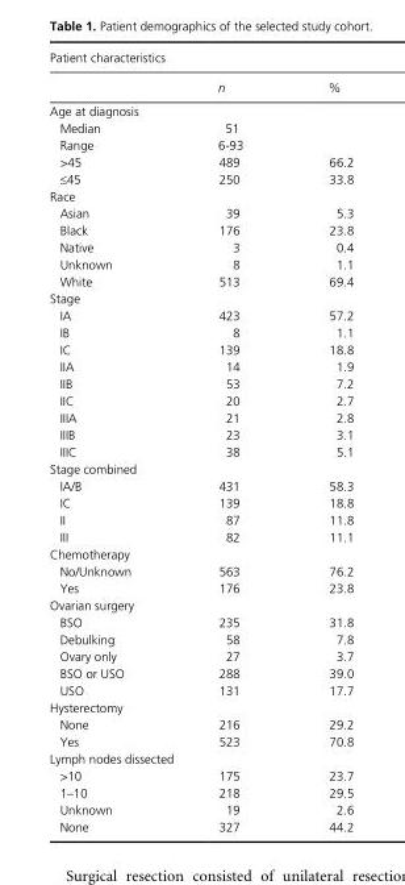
<table><thead><tr><td colspan="3">Patient characteristics</td></tr><tr><td></td><td>n</td><td>%</td></tr></thead><tbody><tr><td colspan="3">Age at diagnosis</td></tr><tr><td>Median</td><td colspan="2">51</td></tr><tr><td>Range</td><td>6-93</td><td></td></tr><tr><td>&gt;45</td><td>489</td><td>66.2</td></tr><tr><td>≤45</td><td>250</td><td>33.8</td></tr><tr><td colspan="3">Race</td></tr><tr><td>Asian</td><td>39</td><td>5.3</td></tr><tr><td>Black</td><td>176</td><td>23.8</td></tr><tr><td>Native</td><td>3</td><td>0.4</td></tr><tr><td>Unknown</td><td>8</td><td>1.1</td></tr><tr><td>White</td><td>513</td><td>69.4</td></tr><tr><td colspan="3">Stage</td></tr><tr><td>IA</td><td>423</td><td>57.2</td></tr><tr><td>IB</td><td>8</td><td>1.1</td></tr><tr><td>IC</td><td>139</td><td>18.8</td></tr><tr><td>IIA</td><td>14</td><td>1.9</td></tr><tr><td>IIB</td><td>53</td><td>7.2</td></tr><tr><td>IIC</td><td>20</td><td>2.7</td></tr><tr><td>IIIA</td><td>21</td><td>2.8</td></tr><tr><td>IIIB</td><td>23</td><td>3.1</td></tr><tr><td>IIIC</td><td>38</td><td>5.1</td></tr><tr><td colspan="3">Stage combined</td></tr><tr><td>IA/B</td><td>431</td><td>58.3</td></tr><tr><td>IC</td><td>139</td><td>18.8</td></tr><tr><td>II</td><td>87</td><td>11.8</td></tr><tr><td>III</td><td>82</td><td>11.1</td></tr><tr><td colspan="3">Chemotherapy</td></tr><tr><td>No/Unknown</td><td>563</td><td>76.2</td></tr><tr><td>Yes</td><td>176</td><td>23.8</td></tr><tr><td colspan="3">Ovarian surgery</td></tr><tr><td>BSO</td><td>235</td><td>31.8</td></tr><tr><td>Debulking</td><td>58</td><td>7.8</td></tr><tr><td>Ovary only</td><td>27</td><td>3.7</td></tr><tr><td>BSO or USO</td><td>288</td><td>39.0</td></tr><tr><td>USO</td><td>131</td><td>17.7</td></tr><tr><td colspan="3">Hysterectomy</td></tr><tr><td>None</td><td>216</td><td>29.2</td></tr><tr><td>Yes</td><td>523</td><td>70.8</td></tr><tr><td colspan="3">Lymph nodes dissected</td></tr><tr><td>&gt;10</td><td>175</td><td>23.7</td></tr><tr><td>1–10</td><td>218</td><td>29.5</td></tr><tr><td>Unknown</td><td>19</td><td>2.6</td></tr><tr><td>None</td><td>327</td><td>44.2</td></tr></tbody></table>